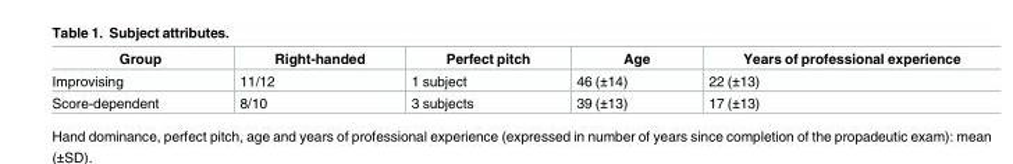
<table><thead><tr><td>Group</td><td>Right-handed</td><td>Perfect pitch</td><td>Age</td><td>Years of professional experience</td></tr></thead><tbody><tr><td>Improvising</td><td>11/12</td><td>1 subject</td><td>46 (±14)</td><td>22 (±13)</td></tr><tr><td>Score-dependent</td><td>8/10</td><td>3 subjects</td><td>39 (±13)</td><td>17 (±13)</td></tr></tbody></table>